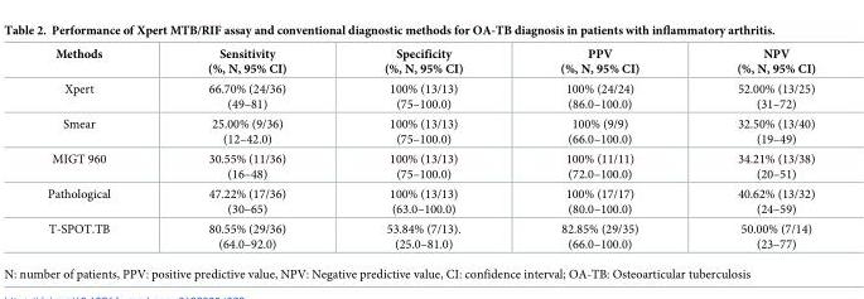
<table><thead><tr><td>Methods</td><td>Sensitivity (%, N, 95% CI)</td><td>Specificity (%, N, 95% CI)</td><td>PPV (%, N, 95% CI)</td><td>NPV (%, N, 95% CI)</td></tr></thead><tbody><tr><td>Xpert</td><td>66.70% (24/36) (49–81)</td><td>100% (13/13) (75–100.0)</td><td>100% (24/24) (86.0–100.0)</td><td>52.00% (13/25) (31–72)</td></tr><tr><td>Smear</td><td>25.00% (9/36) (12–42.0)</td><td>100% (13/13) (75–100.0)</td><td>100% (9/9) (66.0–100.0)</td><td>32.50% (13/40) (19–49)</td></tr><tr><td>MIGT 960</td><td>30.55% (11/36) (16–48)</td><td>100% (13/13) (75–100.0)</td><td>100% (11/11) (72.0–100.0)</td><td>34.21% (13/38) (20–51)</td></tr><tr><td>Pathological</td><td>47.22% (17/36) (30–65)</td><td>100% (13/13) (63.0–100.0)</td><td>100% (17/17) (80.0–100.0)</td><td>40.62% (13/32) (24–59)</td></tr><tr><td>T-SPOT.TB</td><td>80.55% (29/36) (64.0–92.0)</td><td>53.84% (7/13). (25.0–81.0)</td><td>82.85% (29/35) (66.0–100.0)</td><td>50.00% (7/14) (23–77)</td></tr></tbody></table>